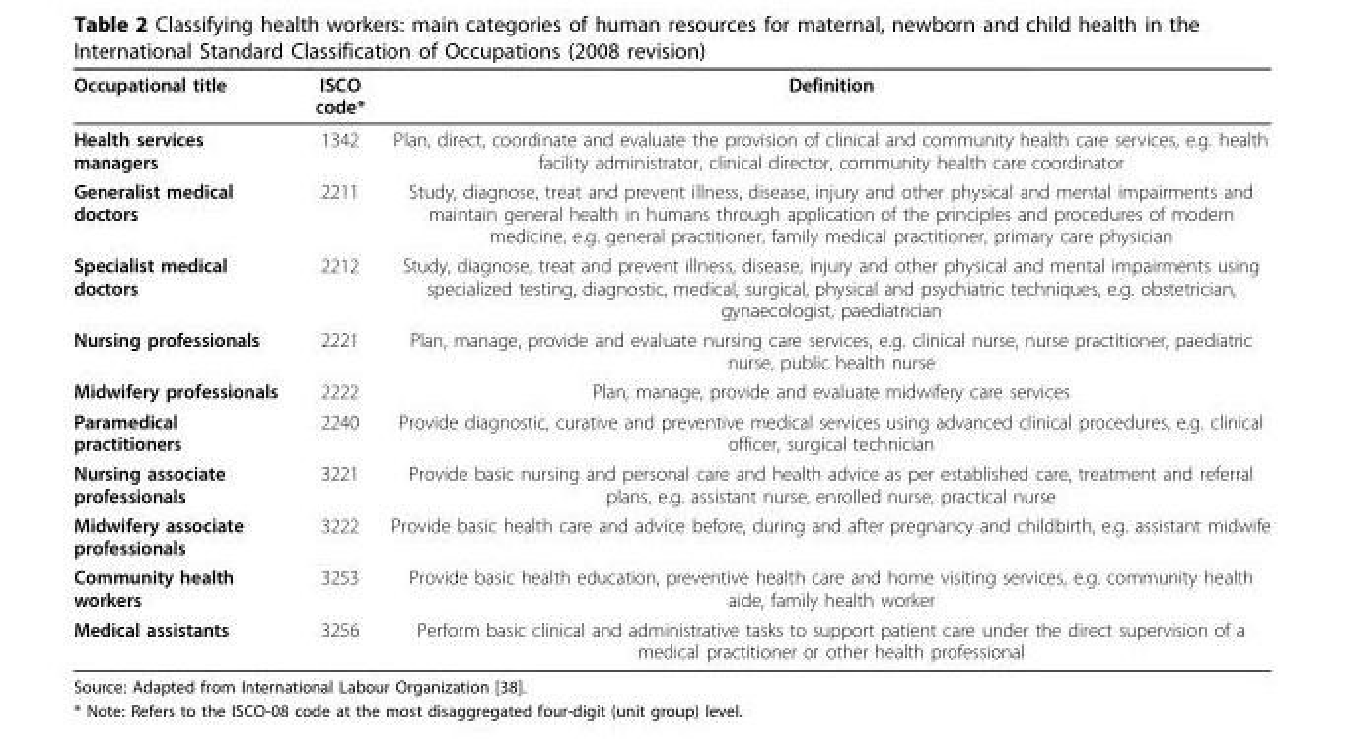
<table><thead><tr><td>Occupational title</td><td>ISCO code*</td><td>Definition</td></tr></thead><tbody><tr><td>Health services managers</td><td>1342</td><td>Plan, direct, coordinate and evaluate the provision of clinical and community health care services, e.g. health facility administrator, clinical director, community health care coordinator</td></tr><tr><td>Generalist medical doctors</td><td>2211</td><td>Study, diagnose, treat and prevent illness, disease, injury and other physical and mental impairments and maintain general health in humans through application of the principles and procedures of modern medicine, e.g. general practitioner, family medical practitioner, primary care physician</td></tr><tr><td>Specialist medical doctors</td><td>2212</td><td>Study, diagnose, treat and prevent illness, disease, injury and other physical and mental impairments using specialized testing, diagnostic, medical, surgical, physical and psychiatric techniques, e.g. obstetrician, gynaecologist, paediatrician</td></tr><tr><td>Nursing professionals</td><td>2221</td><td>Plan, manage, provide and evaluate nursing care services, e.g. clinical nurse, nurse practitioner, paediatric nurse, public health nurse</td></tr><tr><td>Midwifery professionals</td><td>2222</td><td>Plan, manage, provide and evaluate midwifery care services</td></tr><tr><td>Paramedical practitioners</td><td>2240</td><td>Provide diagnostic, curative and preventive medical services using advanced clinical procedures, e.g. clinical officer, surgical technician</td></tr><tr><td>Nursing associate professionals</td><td>3221</td><td>Provide basic nursing and personal care and health advice as per established care, treatment and referral plans, e.g. assistant nurse, enrolled nurse, practical nurse</td></tr><tr><td>Midwifery associate professionals</td><td>3222</td><td>Provide basic health care and advice before, during and after pregnancy and childbirth, e.g. assistant midwife</td></tr><tr><td>Community health workers</td><td>3253</td><td>Provide basic health education, preventive health care and home visiting services, e.g. community health aide, family health worker</td></tr><tr><td>Medical assistants</td><td>3256</td><td>Perform basic clinical and administrative tasks to support patient care under the direct supervision of a medical practitioner or other health professional</td></tr></tbody></table>